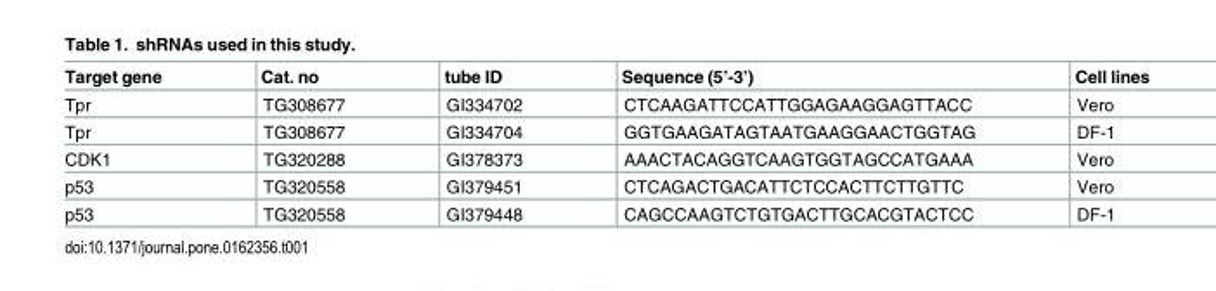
<table><thead><tr><td>Target gene</td><td>Cat. no</td><td>tube ID</td><td>Sequence (5’-3’)</td><td>Cell lines</td></tr></thead><tbody><tr><td>Tpr</td><td>TG308677</td><td>GI334702</td><td>CTCAAGATTCCATTGGAGAAGGAGTTACC</td><td>Vero</td></tr><tr><td>Tpr</td><td>TG308677</td><td>GI334704</td><td>GGTGAAGATAGTAATGAAGGAACTGGTAG</td><td>DF-1</td></tr><tr><td>CDK1</td><td>TG320288</td><td>GI378373</td><td>AAACTACAGGTCAAGTGGTAGCCATGAAA</td><td>Vero</td></tr><tr><td>p53</td><td>TG320558</td><td>GI379451</td><td>CTCAGACTGACATTCTCCACTTCTTGTTC</td><td>Vero</td></tr><tr><td>p53</td><td>TG320558</td><td>GI379448</td><td>CAGCCAAGTCTGTGACTTGCACGTACTCC</td><td>DF-1</td></tr></tbody></table>